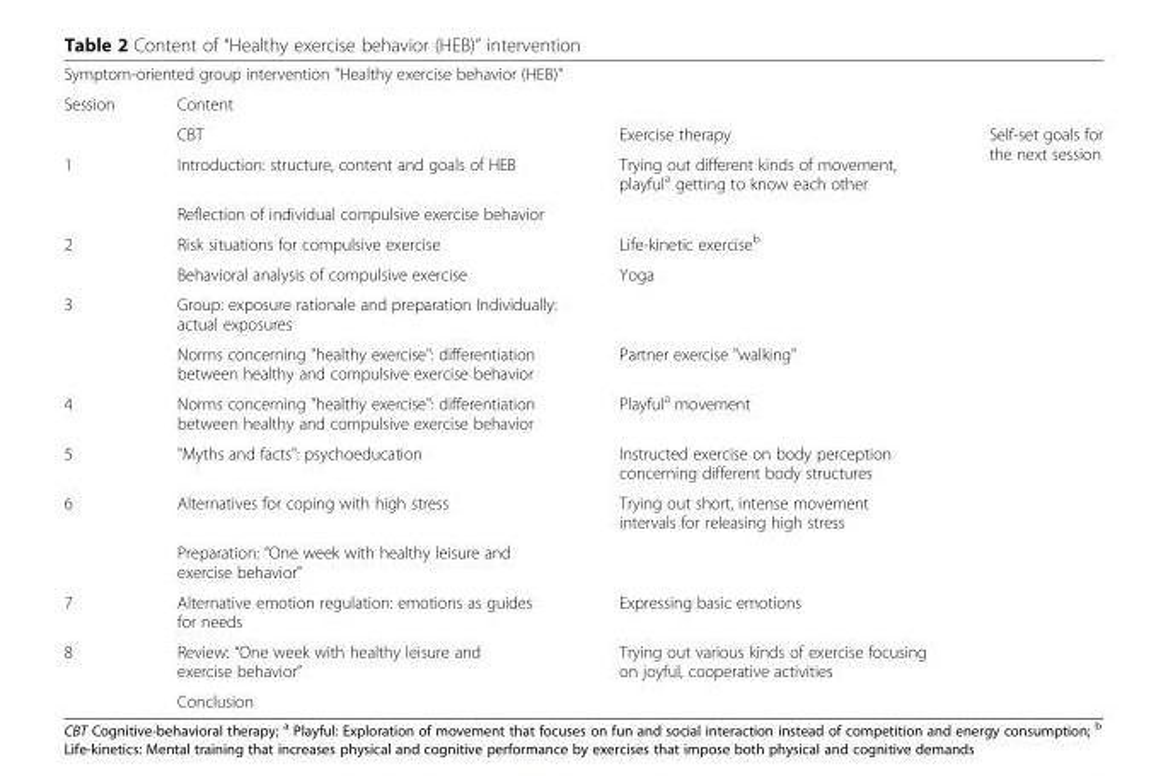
<table><tbody><tr><td colspan="4">Symptom-oriented group intervention &quot;Healthy exercise behavior (HEB)&quot;</td></tr><tr><td rowspan="2">Session</td><td colspan="2">Content</td><td></td></tr><tr><td>CBT</td><td>Exercise therapy</td><td rowspan="14">Self-set goals for the next session</td></tr><tr><td rowspan="2">1</td><td>Introduction: structure, content and goals of HEB</td><td>Trying out different kinds of movement, playful<sup>a</sup> getting to know each other</td></tr><tr><td>Reflection of individual compulsive exercise behavior</td><td></td></tr><tr><td rowspan="2">2</td><td>Risk situations for compulsive exercise</td><td>Life-kinetic exercise<sup>b</sup></td></tr><tr><td>Behavioral analysis of compulsive exercise</td><td>Yoga</td></tr><tr><td rowspan="2">3</td><td>Group: exposure rationale and preparation Individually: actual exposures</td><td></td></tr><tr><td>Norms concerning &quot;healthy exercise&quot;: differentiation between healthy and compulsive exercise behavior</td><td>Partner exercise &quot;walking&quot;</td></tr><tr><td>4</td><td>Norms concerning &quot;healthy exercise&quot;: differentiation between healthy and compulsive exercise behavior</td><td>Playful<sup>a</sup> movement</td></tr><tr><td>5</td><td>&quot;Myths and facts&quot;: psychoeducation</td><td>Instructed exercise on body perception concerning different body structures</td></tr><tr><td rowspan="2">6</td><td>Alternatives for coping with high stress</td><td>Trying out short, intense movement intervals for releasing high stress</td></tr><tr><td>Preparation: “One week with healthy leisure and exercise behavior”</td><td></td></tr><tr><td>7</td><td>Alternative emotion regulation: emotions as guides for needs</td><td>Expressing basic emotions</td></tr><tr><td rowspan="2">8</td><td>Review: “One week with healthy leisure and exercise behavior”</td><td>Trying out various kinds of exercise focusing on joyful, cooperative activities</td></tr><tr><td>Conclusion</td><td></td></tr></tbody></table>